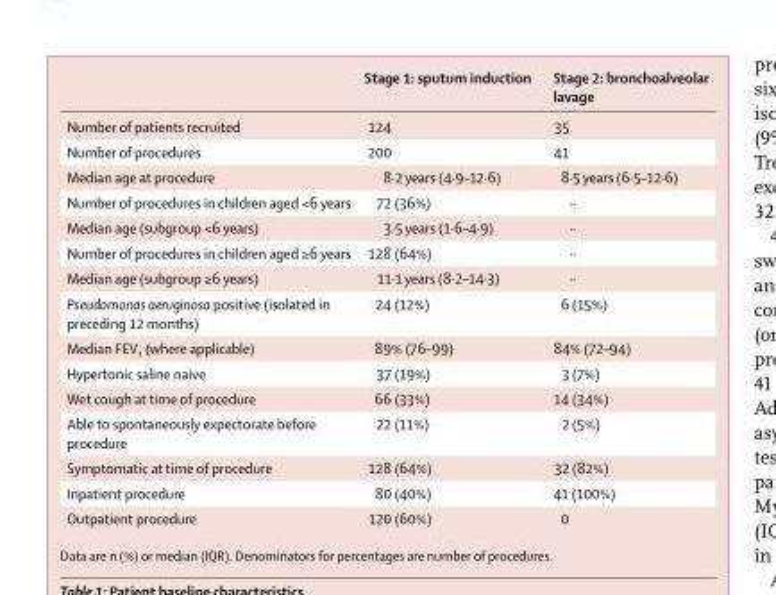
<table><thead><tr><td></td><td>Stage 1: sputum induction</td><td>Stage 2: bronchoalveolar lavage</td></tr></thead><tbody><tr><td>Number of patients recruited</td><td>124</td><td>35</td></tr><tr><td>Number of procedures</td><td>200</td><td>41</td></tr><tr><td>Median age at procedure</td><td>8·2 years (4·9–12·6)</td><td>8·5 years (6·5–12·6)</td></tr><tr><td>Number of procedures in children aged &lt;6 years</td><td>72 (36%)</td><td>··</td></tr><tr><td>Median age (subgroup &lt;6 years)</td><td>3·5 years (1·6–4·9)</td><td>··</td></tr><tr><td>Number of procedures in children aged ≥6 years</td><td>128 (64%)</td><td>··</td></tr><tr><td>Median age (subgroup ≥6 years)</td><td>11·1 years (8·2–14·3)</td><td>··</td></tr><tr><td>Pseudomonas aeruginosa positive (isolated in preceding 12 months)</td><td>24 (12%)</td><td>6 (15%)</td></tr><tr><td>Median FEV₁ (where applicable)</td><td>89% (76–99)</td><td>84% (72–94)</td></tr><tr><td>Hypertonic saline naive</td><td>37 (19%)</td><td>3 (7%)</td></tr><tr><td>Wet cough at time of procedure</td><td>66 (33%)</td><td>14 (34%)</td></tr><tr><td>Able to spontaneously expectorate before procedure</td><td>22 (11%)</td><td>2 (5%)</td></tr><tr><td>Symptomatic at time of procedure</td><td>128 (64%)</td><td>32 (82%)</td></tr><tr><td>Inpatient procedure</td><td>80 (40%)</td><td>41 (100%)</td></tr><tr><td>Outpatient procedure</td><td>120 (60%)</td><td>0</td></tr></tbody></table>